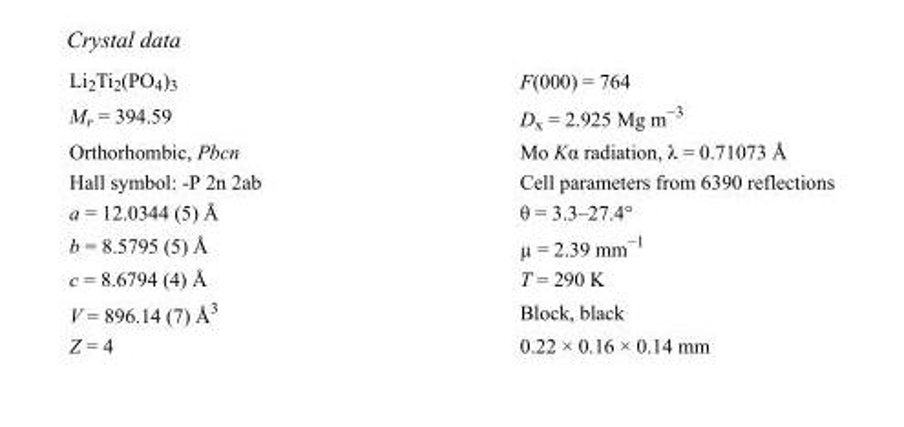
<table><tbody><tr><td>Li<sub>2</sub>Ti<sub>2</sub>(PO<sub>4</sub>)<sub>3</sub></td><td>F(000) = 764</td></tr><tr><td>M<sub>r</sub> = 394.59</td><td>D<sub>x</sub> = 2.925 Mg m<sup>−3</sup></td></tr><tr><td>Orthorhombic, Pbcn</td><td>Mo Kα radiation, λ = 0.71073 Å</td></tr><tr><td>Hall symbol: -P 2n 2ab</td><td>Cell parameters from 6390 reflections</td></tr><tr><td>a = 12.0344 (5) Å</td><td>θ = 3.3–27.4°</td></tr><tr><td>b = 8.5795 (5) Å</td><td>µ = 2.39 mm<sup>−1</sup></td></tr><tr><td>c = 8.6794 (4) Å</td><td>T = 290 K</td></tr><tr><td>V = 896.14 (7) Å<sup>3</sup></td><td>Block, black</td></tr><tr><td>Z = 4</td><td>0.22 × 0.16 × 0.14 mm</td></tr></tbody></table>